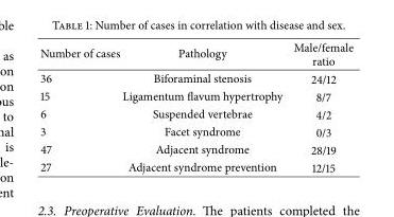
<table><thead><tr><td>Number of cases</td><td>Pathology</td><td>Male/female ratio</td></tr></thead><tbody><tr><td>36</td><td>Biforaminal stenosis</td><td>24/12</td></tr><tr><td>15</td><td>Ligamentum flavum hypertrophy</td><td>8/7</td></tr><tr><td>6</td><td>Suspended vertebrae</td><td>4/2</td></tr><tr><td>3</td><td>Facet syndrome</td><td>0/3</td></tr><tr><td>47</td><td>Adjacent syndrome</td><td>28/19</td></tr><tr><td>27</td><td>Adjacent syndrome prevention</td><td>12/15</td></tr></tbody></table>